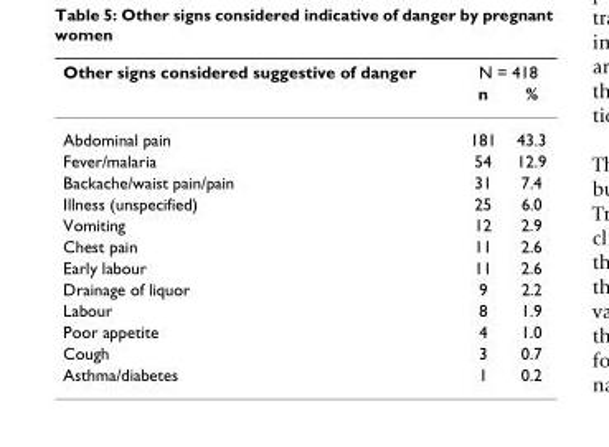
<table><thead><tr><td rowspan="2">Other signs considered suggestive of danger</td><td colspan="2">N = 418</td></tr><tr><td>n</td><td>%</td></tr></thead><tbody><tr><td>Abdominal pain</td><td>181</td><td>43.3</td></tr><tr><td>Fever/malaria</td><td>54</td><td>12.9</td></tr><tr><td>Backache/waist pain/pain</td><td>31</td><td>7.4</td></tr><tr><td>Illness (unspecified)</td><td>25</td><td>6.0</td></tr><tr><td>Vomiting</td><td>12</td><td>2.9</td></tr><tr><td>Chest pain</td><td>11</td><td>2.6</td></tr><tr><td>Early labour</td><td>11</td><td>2.6</td></tr><tr><td>Drainage of liquor</td><td>9</td><td>2.2</td></tr><tr><td>Labour</td><td>8</td><td>1.9</td></tr><tr><td>Poor appetite</td><td>4</td><td>1.0</td></tr><tr><td>Cough</td><td>3</td><td>0.7</td></tr><tr><td>Asthma/diabetes</td><td>1</td><td>0.2</td></tr></tbody></table>